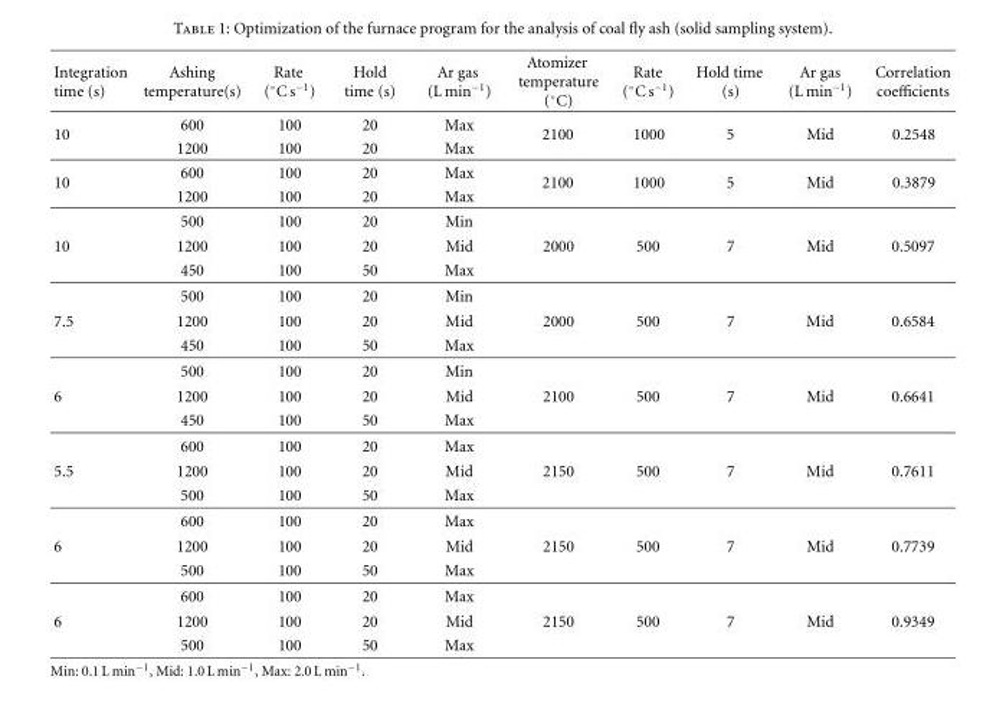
<table><thead><tr><td>Integration time (s)</td><td>Ashing temperature(s)</td><td>Rate (◦C s−1)</td><td>Hold time (s)</td><td>Ar gas (L min−1)</td><td>Atomizer temperature (◦C)</td><td>Rate (◦C s−1)</td><td>Hold time (s)</td><td>Ar gas (L min−1)</td><td>Correlation coefficients</td></tr></thead><tbody><tr><td rowspan="2">10</td><td>600</td><td>100</td><td>20</td><td>Max</td><td rowspan="2">2100</td><td rowspan="2">1000</td><td rowspan="2">5</td><td rowspan="2">Mid</td><td rowspan="2">0.2548</td></tr><tr><td>1200</td><td>100</td><td>20</td><td>Max</td></tr><tr><td rowspan="3">10</td><td>600</td><td>100</td><td>20</td><td>Max</td><td rowspan="2">2100</td><td rowspan="2">1000</td><td rowspan="2">5</td><td rowspan="2">Mid</td><td rowspan="2">0.3879</td></tr><tr><td>1200</td><td>100</td><td>20</td><td>Max</td></tr><tr><td>500</td><td>100</td><td>20</td><td>Min</td><td></td><td></td><td></td><td></td><td></td></tr><tr><td rowspan="3">10</td><td>1200</td><td>100</td><td>20</td><td>Mid</td><td>2000</td><td>500</td><td>7</td><td>Mid</td><td>0.5097</td></tr><tr><td>450</td><td>100</td><td>50</td><td>Max</td><td></td><td></td><td></td><td></td><td></td></tr><tr><td>500</td><td>100</td><td>20</td><td>Min</td><td></td><td></td><td></td><td></td><td></td></tr><tr><td rowspan="3">7.5</td><td>1200</td><td>100</td><td>20</td><td>Mid</td><td>2000</td><td>500</td><td>7</td><td>Mid</td><td>0.6584</td></tr><tr><td>450</td><td>100</td><td>50</td><td>Max</td><td></td><td></td><td></td><td></td><td></td></tr><tr><td>500</td><td>100</td><td>20</td><td>Min</td><td></td><td></td><td></td><td></td><td></td></tr><tr><td rowspan="3">6</td><td>1200</td><td>100</td><td>20</td><td>Mid</td><td>2100</td><td>500</td><td>7</td><td>Mid</td><td>0.6641</td></tr><tr><td>450</td><td>100</td><td>50</td><td>Max</td><td></td><td></td><td></td><td></td><td></td></tr><tr><td>600</td><td>100</td><td>20</td><td>Max</td><td></td><td></td><td></td><td></td><td></td></tr><tr><td rowspan="3">5.5</td><td>1200</td><td>100</td><td>20</td><td>Mid</td><td>2150</td><td>500</td><td>7</td><td>Mid</td><td>0.7611</td></tr><tr><td>500</td><td>100</td><td>50</td><td>Max</td><td></td><td></td><td></td><td></td><td></td></tr><tr><td>600</td><td>100</td><td>20</td><td>Max</td><td></td><td></td><td></td><td></td><td></td></tr><tr><td rowspan="3">6</td><td>1200</td><td>100</td><td>20</td><td>Mid</td><td>2150</td><td>500</td><td>7</td><td>Mid</td><td>0.7739</td></tr><tr><td>500</td><td>100</td><td>50</td><td>Max</td><td></td><td></td><td></td><td></td><td></td></tr><tr><td>600</td><td>100</td><td>20</td><td>Max</td><td></td><td></td><td></td><td></td><td></td></tr><tr><td rowspan="2">6</td><td>1200</td><td>100</td><td>20</td><td>Mid</td><td>2150</td><td>500</td><td>7</td><td>Mid</td><td>0.9349</td></tr><tr><td>500</td><td>100</td><td>50</td><td>Max</td><td></td><td></td><td></td><td></td><td></td></tr></tbody></table>